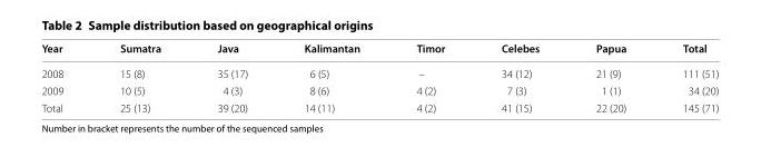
<table><thead><tr><td>Year</td><td>Sumatra</td><td>Java</td><td>Kalimantan</td><td>Timor</td><td>Celebes</td><td>Papua</td><td>Total</td></tr></thead><tbody><tr><td>2008</td><td>15 (8)</td><td>35 (17)</td><td>6 (5)</td><td>–</td><td>34 (12)</td><td>21 (9)</td><td>111 (51)</td></tr><tr><td>2009</td><td>10 (5)</td><td>4 (3)</td><td>8 (6)</td><td>4 (2)</td><td>7 (3)</td><td>1 (1)</td><td>34 (20)</td></tr><tr><td>Total</td><td>25 (13)</td><td>39 (20)</td><td>14 (11)</td><td>4 (2)</td><td>41 (15)</td><td>22 (20)</td><td>145 (71)</td></tr></tbody></table>